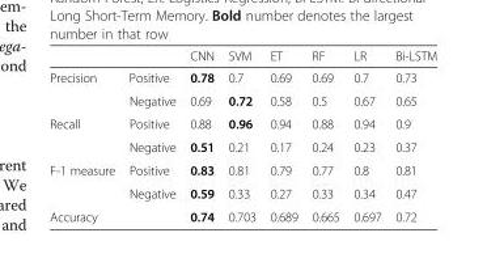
<table><thead><tr><td></td><td></td><td>CNN</td><td>SVM</td><td>ET</td><td>RF</td><td>LR</td><td>Bi-LSTM</td></tr></thead><tbody><tr><td rowspan="2">Precision</td><td>Positive</td><td>0.78</td><td>0.7</td><td>0.69</td><td>0.69</td><td>0.7</td><td>0.73</td></tr><tr><td>Negative</td><td>0.69</td><td>0.72</td><td>0.58</td><td>0.5</td><td>0.67</td><td>0.65</td></tr><tr><td rowspan="2">Recall</td><td>Positive</td><td>0.88</td><td>0.96</td><td>0.94</td><td>0.88</td><td>0.94</td><td>0.9</td></tr><tr><td>Negative</td><td>0.51</td><td>0.21</td><td>0.17</td><td>0.24</td><td>0.23</td><td>0.37</td></tr><tr><td rowspan="2">F-1 measure</td><td>Positive</td><td>0.83</td><td>0.81</td><td>0.79</td><td>0.77</td><td>0.8</td><td>0.81</td></tr><tr><td>Negative</td><td>0.59</td><td>0.33</td><td>0.27</td><td>0.33</td><td>0.34</td><td>0.47</td></tr><tr><td colspan="2">Accuracy</td><td>0.74</td><td>0.703</td><td>0.689</td><td>0.665</td><td>0.697</td><td>0.72</td></tr></tbody></table>